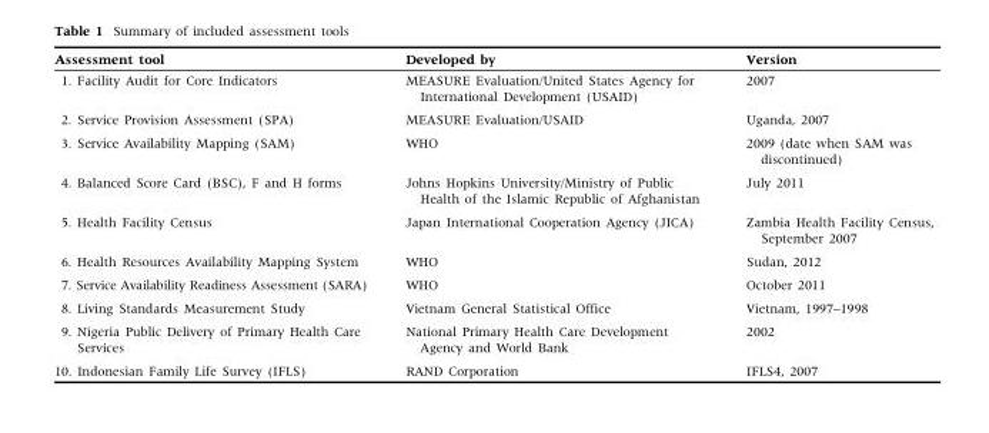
<table><thead><tr><td>Assessment tool</td><td>Developed by</td><td>Version</td></tr></thead><tbody><tr><td>1. Facility Audit for Core Indicators</td><td>MEASURE Evaluation/United States Agency for International Development (USAID)</td><td>2007</td></tr><tr><td>2. Service Provision Assessment (SPA)</td><td>MEASURE Evaluation/USAID</td><td>Uganda, 2007</td></tr><tr><td>3. Service Availability Mapping (SAM)</td><td>WHO</td><td>2009 (date when SAM was discontinued)</td></tr><tr><td>4. Balanced Score Card (BSC), F and H forms</td><td>Johns Hopkins University/Ministry of Public Health of the Islamic Republic of Afghanistan</td><td>July 2011</td></tr><tr><td>5. Health Facility Census</td><td>Japan International Cooperation Agency (JICA)</td><td>Zambia Health Facility Census, September 2007</td></tr><tr><td>6. Health Resources Availability Mapping System</td><td>WHO</td><td>Sudan, 2012</td></tr><tr><td>7. Service Availability Readiness Assessment (SARA)</td><td>WHO</td><td>October 2011</td></tr><tr><td>8. Living Standards Measurement Study</td><td>Vietnam General Statistical Office</td><td>Vietnam, 1997–1998</td></tr><tr><td>9. Nigeria Public Delivery of Primary Health Care Services</td><td>National Primary Health Care Development Agency and World Bank</td><td>2002</td></tr><tr><td>10. Indonesian Family Life Survey (IFLS)</td><td>RAND Corporation</td><td>IFLS4, 2007</td></tr></tbody></table>